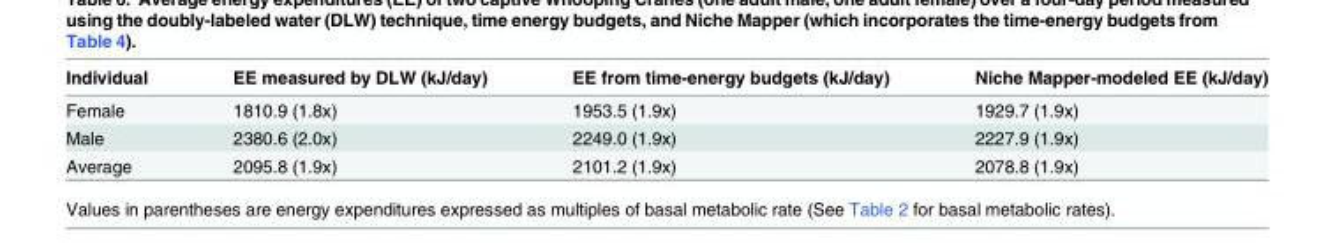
<table><thead><tr><td>Individual</td><td>EE measured by DLW (kJ/day)</td><td>EE from time-energy budgets (kJ/day)</td><td>Niche Mapper-modeled EE (kJ/day)</td></tr></thead><tbody><tr><td>Female</td><td>1810.9 (1.8x)</td><td>1953.5 (1.9x)</td><td>1929.7 (1.9x)</td></tr><tr><td>Male</td><td>2380.6 (2.0x)</td><td>2249.0 (1.9x)</td><td>2227.9 (1.9x)</td></tr><tr><td>Average</td><td>2095.8 (1.9x)</td><td>2101.2 (1.9x)</td><td>2078.8 (1.9x)</td></tr></tbody></table>